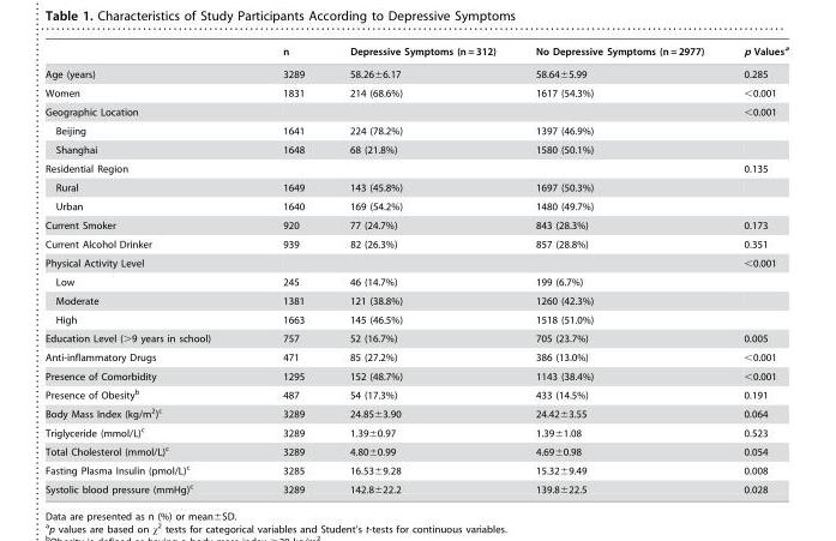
<table><thead><tr><td></td><td>n</td><td>Depressive Symptoms (n = 312)</td><td>No Depressive Symptoms (n = 2977)</td><td>p Values<sup>a</sup></td></tr></thead><tbody><tr><td>Age (years)</td><td>3289</td><td>58.26±6.17</td><td>58.64±5.99</td><td>0.285</td></tr><tr><td>Women</td><td>1831</td><td>214 (68.6%)</td><td>1617 (54.3%)</td><td>&lt;0.001</td></tr><tr><td>Geographic Location</td><td></td><td></td><td></td><td>&lt;0.001</td></tr><tr><td>Beijing</td><td>1641</td><td>224 (78.2%)</td><td>1397 (46.9%)</td><td></td></tr><tr><td>Shanghai</td><td>1648</td><td>68 (21.8%)</td><td>1580 (50.1%)</td><td></td></tr><tr><td>Residential Region</td><td></td><td></td><td></td><td>0.135</td></tr><tr><td>Rural</td><td>1649</td><td>143 (45.8%)</td><td>1697 (50.3%)</td><td></td></tr><tr><td>Urban</td><td>1640</td><td>169 (54.2%)</td><td>1480 (49.7%)</td><td></td></tr><tr><td>Current Smoker</td><td>920</td><td>77 (24.7%)</td><td>843 (28.3%)</td><td>0.173</td></tr><tr><td>Current Alcohol Drinker</td><td>939</td><td>82 (26.3%)</td><td>857 (28.8%)</td><td>0.351</td></tr><tr><td>Physical Activity Level</td><td></td><td></td><td></td><td>&lt;0.001</td></tr><tr><td>Low</td><td>245</td><td>46 (14.7%)</td><td>199 (6.7%)</td><td></td></tr><tr><td>Moderate</td><td>1381</td><td>121 (38.8%)</td><td>1260 (42.3%)</td><td></td></tr><tr><td>High</td><td>1663</td><td>145 (46.5%)</td><td>1518 (51.0%)</td><td></td></tr><tr><td>Education Level (&gt;9 years in school)</td><td>757</td><td>52 (16.7%)</td><td>705 (23.7%)</td><td>0.005</td></tr><tr><td>Anti-inflammatory Drugs</td><td>471</td><td>85 (27.2%)</td><td>386 (13.0%)</td><td>&lt;0.001</td></tr><tr><td>Presence of Comorbidity</td><td>1295</td><td>152 (48.7%)</td><td>1143 (38.4%)</td><td>&lt;0.001</td></tr><tr><td>Presence of Obesity<sup>b</sup></td><td>487</td><td>54 (17.3%)</td><td>433 (14.5%)</td><td>0.191</td></tr><tr><td>Body Mass Index (kg/m<sup>2</sup>)<sup>c</sup></td><td>3289</td><td>24.85±3.90</td><td>24.42±3.55</td><td>0.064</td></tr><tr><td>Triglyceride (mmol/L)<sup>c</sup></td><td>3289</td><td>1.39±0.97</td><td>1.39±1.08</td><td>0.523</td></tr><tr><td>Total Cholesterol (mmol/L)<sup>c</sup></td><td>3289</td><td>4.80±0.99</td><td>4.69±0.98</td><td>0.054</td></tr><tr><td>Fasting Plasma Insulin (pmol/L)<sup>c</sup></td><td>3285</td><td>16.53±9.28</td><td>15.32±9.49</td><td>0.008</td></tr><tr><td>Systolic blood pressure (mmHg)<sup>c</sup></td><td>3289</td><td>142.8±22.2</td><td>139.8±22.5</td><td>0.028</td></tr></tbody></table>